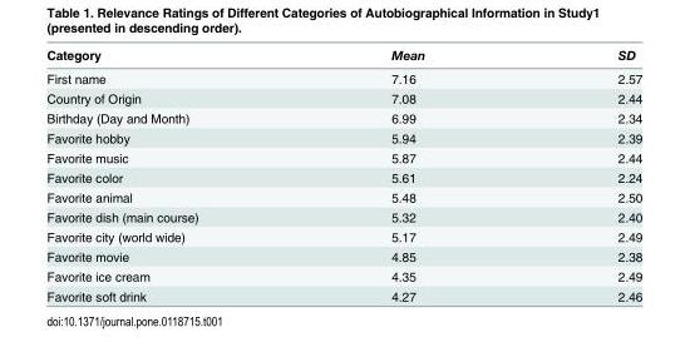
<table><thead><tr><td>Category</td><td>Mean</td><td>SD</td></tr></thead><tbody><tr><td>First name</td><td>7.16</td><td>2.57</td></tr><tr><td>Country of Origin</td><td>7.08</td><td>2.44</td></tr><tr><td>Birthday (Day and Month)</td><td>6.99</td><td>2.34</td></tr><tr><td>Favorite hobby</td><td>5.94</td><td>2.39</td></tr><tr><td>Favorite music</td><td>5.87</td><td>2.44</td></tr><tr><td>Favorite color</td><td>5.61</td><td>2.24</td></tr><tr><td>Favorite animal</td><td>5.48</td><td>2.50</td></tr><tr><td>Favorite dish (main course)</td><td>5.32</td><td>2.40</td></tr><tr><td>Favorite city (world wide)</td><td>5.17</td><td>2.49</td></tr><tr><td>Favorite movie</td><td>4.85</td><td>2.38</td></tr><tr><td>Favorite ice cream</td><td>4.35</td><td>2.49</td></tr><tr><td>Favorite soft drink</td><td>4.27</td><td>2.46</td></tr></tbody></table>